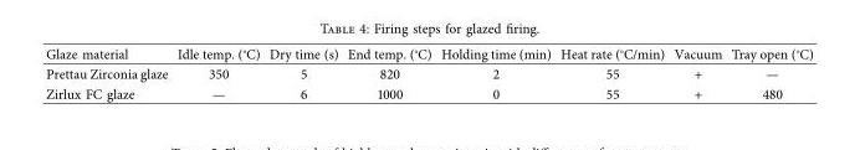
<table><thead><tr><td>Glaze material</td><td>Idle temp. (°C)</td><td>Dry time (s)</td><td>End temp. (°C)</td><td>Holding time (min)</td><td>Heat rate (°C/min)</td><td>Vacuum</td><td>Tray open (°C)</td></tr></thead><tbody><tr><td>Prettau Zirconia glaze</td><td>350</td><td>5</td><td>820</td><td>2</td><td>55</td><td>+</td><td>—</td></tr><tr><td>Zirlux FC glaze</td><td>—</td><td>6</td><td>1000</td><td>0</td><td>55</td><td>+</td><td>480</td></tr></tbody></table>